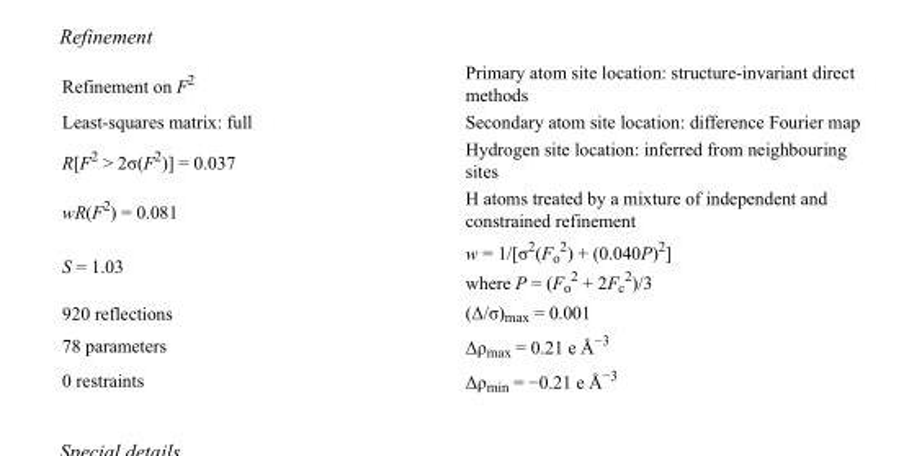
<table><tbody><tr><td>Refinement on F<sup>2</sup></td><td>Primary atom site location: structure-invariant direct methods</td></tr><tr><td>Least-squares matrix: full</td><td>Secondary atom site location: difference Fourier map</td></tr><tr><td>R[F<sup>2</sup> &gt; 2σ(F<sup>2</sup>)] = 0.037</td><td>Hydrogen site location: inferred from neighbouring sites</td></tr><tr><td>wR(F<sup>2</sup>) = 0.081</td><td>H atoms treated by a mixture of independent and constrained refinement</td></tr><tr><td>S = 1.03</td><td>w = 1/[σ<sup>2</sup>(F<sub>o</sub> <sup>2</sup>) + (0.040P)<sup>2</sup>] where P = (F<sub>o</sub> <sup>2</sup> + 2F<sub>c</sub> <sup>2</sup>)/3</td></tr><tr><td>920 reflections</td><td>(Δ/σ)<sub>max</sub> = 0.001</td></tr><tr><td>78 parameters</td><td>Δρ<sub>max</sub> = 0.21 e Å<sup>−3</sup></td></tr><tr><td>0 restraints</td><td>Δρ<sub>min</sub> = −0.21 e Å<sup>−3</sup></td></tr></tbody></table>